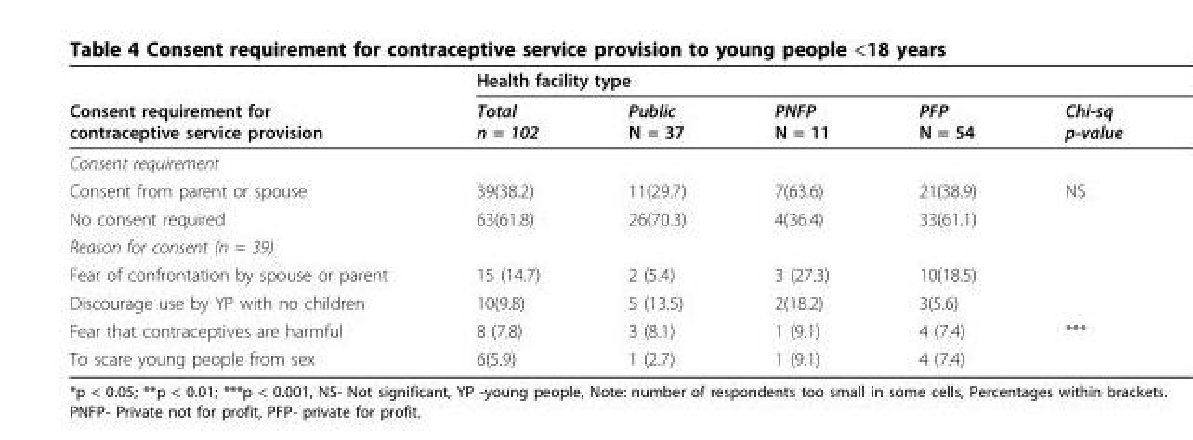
<table><thead><tr><td rowspan="2">Consent requirement for contraceptive service provision</td><td colspan="5">Health facility type</td></tr><tr><td>Total n = 102</td><td>Public N = 37</td><td>PNFP N = 11</td><td>PFP N = 54</td><td>Chi-sq p-value</td></tr></thead><tbody><tr><td colspan="6">Consent requirement</td></tr><tr><td>Consent from parent or spouse</td><td>39(38.2)</td><td>11(29.7)</td><td>7(63.6)</td><td>21(38.9)</td><td>NS</td></tr><tr><td>No consent required</td><td>63(61.8)</td><td>26(70.3)</td><td>4(36.4)</td><td>33(61.1)</td><td></td></tr><tr><td colspan="6">Reason for consent (n = 39)</td></tr><tr><td>Fear of confrontation by spouse or parent</td><td>15 (14.7)</td><td>2 (5.4)</td><td>3 (27.3)</td><td>10(18.5)</td><td></td></tr><tr><td>Discourage use by YP with no children</td><td>10(9.8)</td><td>5 (13.5)</td><td>2(18.2)</td><td>3(5.6)</td><td></td></tr><tr><td>Fear that contraceptives are harmful</td><td>8 (7.8)</td><td>3 (8.1)</td><td>1 (9.1)</td><td>4 (7.4)</td><td>***</td></tr><tr><td>To scare young people from sex</td><td>6(5.9)</td><td>1 (2.7)</td><td>1 (9.1)</td><td>4 (7.4)</td><td></td></tr></tbody></table>